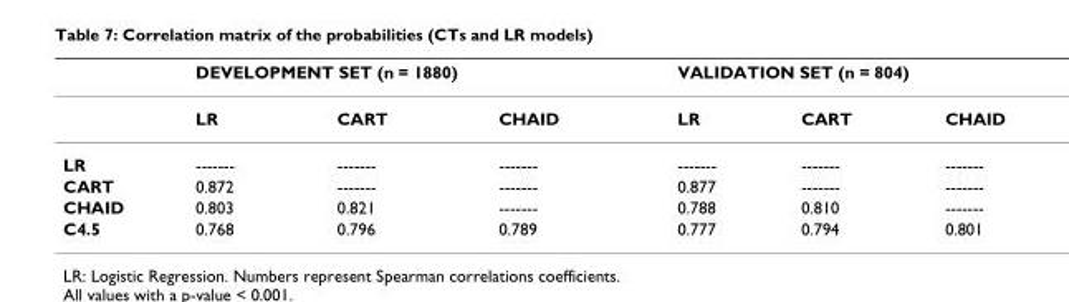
<table><thead><tr><td rowspan="2"></td><td colspan="3">DEVELOPMENT SET (n = 1880)</td><td colspan="3">VALIDATION SET (n = 804)</td></tr><tr><td>LR</td><td>CART</td><td>CHAID</td><td>LR</td><td>CART</td><td>CHAID</td></tr></thead><tbody><tr><td>LR</td><td>-------</td><td>-------</td><td>-------</td><td>-------</td><td>-------</td><td>-------</td></tr><tr><td>CART</td><td>0.872</td><td>-------</td><td>-------</td><td>0.877</td><td>-------</td><td>-------</td></tr><tr><td>CHAID</td><td>0.803</td><td>0.821</td><td>-------</td><td>0.788</td><td>0.810</td><td>-------</td></tr><tr><td>C4.5</td><td>0.768</td><td>0.796</td><td>0.789</td><td>0.777</td><td>0.794</td><td>0.801</td></tr></tbody></table>